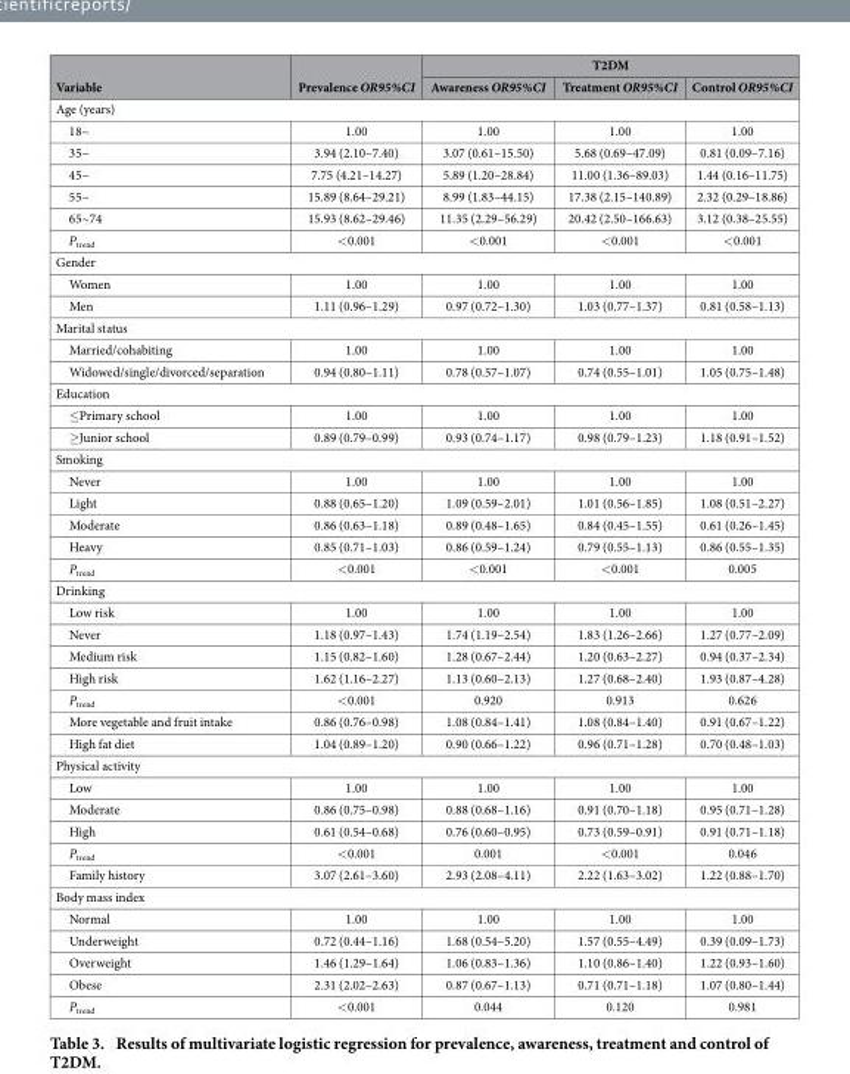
<table><thead><tr><td rowspan="2">Variable</td><td rowspan="2">Prevalence OR95%CI</td><td colspan="3">T2DM</td></tr><tr><td>Awareness OR95%CI</td><td>Treatment OR95%CI</td><td>Control OR95%CI</td></tr></thead><tbody><tr><td colspan="5">Age (years)</td></tr><tr><td>18~</td><td>1.00</td><td>1.00</td><td>1.00</td><td>1.00</td></tr><tr><td>35~</td><td>3.94 (2.10–7.40)</td><td>3.07 (0.61–15.50)</td><td>5.68 (0.69–47.09)</td><td>0.81 (0.09–7.16)</td></tr><tr><td>45~</td><td>7.75 (4.21–14.27)</td><td>5.89 (1.20–28.84)</td><td>11.00 (1.36–89.03)</td><td>1.44 (0.16–11.75)</td></tr><tr><td>55~</td><td>15.89 (8.64–29.21)</td><td>8.99 (1.83–44.15)</td><td>17.38 (2.15–140.89)</td><td>2.32 (0.29–18.86)</td></tr><tr><td>65~74</td><td>15.93 (8.62–29.46)</td><td>11.35 (2.29–56.29)</td><td>20.42 (2.50–166.63)</td><td>3.12 (0.38–25.55)</td></tr><tr><td>P<sub>trend</sub></td><td>&lt; 0.001</td><td>&lt; 0.001</td><td>&lt; 0.001</td><td>&lt; 0.001</td></tr><tr><td colspan="5">Gender</td></tr><tr><td>Women</td><td>1.00</td><td>1.00</td><td>1.00</td><td>1.00</td></tr><tr><td>Men</td><td>1.11 (0.96–1.29)</td><td>0.97 (0.72–1.30)</td><td>1.03 (0.77–1.37)</td><td>0.81 (0.58–1.13)</td></tr><tr><td colspan="5">Marital status</td></tr><tr><td>Married/cohabiting</td><td>1.00</td><td>1.00</td><td>1.00</td><td>1.00</td></tr><tr><td>Widowed/single/divorced/separation</td><td>0.94 (0.80–1.11)</td><td>0.78 (0.57–1.07)</td><td>0.74 (0.55–1.01)</td><td>1.05 (0.75–1.48)</td></tr><tr><td colspan="5">Education</td></tr><tr><td>≤ Primary school</td><td>1.00</td><td>1.00</td><td>1.00</td><td>1.00</td></tr><tr><td>≥ Junior school</td><td>0.89 (0.79–0.99)</td><td>0.93 (0.74–1.17)</td><td>0.98 (0.79–1.23)</td><td>1.18 (0.91–1.52)</td></tr><tr><td colspan="5">Smoking</td></tr><tr><td>Never</td><td>1.00</td><td>1.00</td><td>1.00</td><td>1.00</td></tr><tr><td>Light</td><td>0.88 (0.65–1.20)</td><td>1.09 (0.59–2.01)</td><td>1.01 (0.56–1.85)</td><td>1.08 (0.51–2.27)</td></tr><tr><td>Moderate</td><td>0.86 (0.63–1.18)</td><td>0.89 (0.48–1.65)</td><td>0.84 (0.45–1.55)</td><td>0.61 (0.26–1.45)</td></tr><tr><td>Heavy</td><td>0.85 (0.71–1.03)</td><td>0.86 (0.59–1.24)</td><td>0.79 (0.55–1.13)</td><td>0.86 (0.55–1.35)</td></tr><tr><td>P<sub>trend</sub></td><td>&lt; 0.001</td><td>&lt; 0.001</td><td>&lt; 0.001</td><td>0.005</td></tr><tr><td colspan="5">Drinking</td></tr><tr><td>Low risk</td><td>1.00</td><td>1.00</td><td>1.00</td><td>1.00</td></tr><tr><td>Never</td><td>1.18 (0.97–1.43)</td><td>1.74 (1.19–2.54)</td><td>1.83 (1.26–2.66)</td><td>1.27 (0.77–2.09)</td></tr><tr><td>Medium risk</td><td>1.15 (0.82–1.60)</td><td>1.28 (0.67–2.44)</td><td>1.20 (0.63–2.27)</td><td>0.94 (0.37–2.34)</td></tr><tr><td>High risk</td><td>1.62 (1.16–2.27)</td><td>1.13 (0.60–2.13)</td><td>1.27 (0.68–2.40)</td><td>1.93 (0.87–4.28)</td></tr><tr><td>P<sub>trend</sub></td><td>&lt; 0.001</td><td>0.920</td><td>0.913</td><td>0.626</td></tr><tr><td>More vegetable and fruit intake</td><td>0.86 (0.76–0.98)</td><td>1.08 (0.84–1.41)</td><td>1.08 (0.84–1.40)</td><td>0.91 (0.67–1.22)</td></tr><tr><td>High fat diet</td><td>1.04 (0.89–1.20)</td><td>0.90 (0.66–1.22)</td><td>0.96 (0.71–1.28)</td><td>0.70 (0.48–1.03)</td></tr><tr><td colspan="5">Physical activity</td></tr><tr><td>Low</td><td>1.00</td><td>1.00</td><td>1.00</td><td>1.00</td></tr><tr><td>Moderate</td><td>0.86 (0.75–0.98)</td><td>0.88 (0.68–1.16)</td><td>0.91 (0.70–1.18)</td><td>0.95 (0.71–1.28)</td></tr><tr><td>High</td><td>0.61 (0.54–0.68)</td><td>0.76 (0.60–0.95)</td><td>0.73 (0.59–0.91)</td><td>0.91 (0.71–1.18)</td></tr><tr><td>P<sub>trend</sub></td><td>&lt; 0.001</td><td>0.001</td><td>&lt; 0.001</td><td>0.046</td></tr><tr><td>Family history</td><td>3.07 (2.61–3.60)</td><td>2.93 (2.08–4.11)</td><td>2.22 (1.63–3.02)</td><td>1.22 (0.88–1.70)</td></tr><tr><td colspan="5">Body mass index</td></tr><tr><td>Normal</td><td>1.00</td><td>1.00</td><td>1.00</td><td>1.00</td></tr><tr><td>Underweight</td><td>0.72 (0.44–1.16)</td><td>1.68 (0.54–5.20)</td><td>1.57 (0.55–4.49)</td><td>0.39 (0.09–1.73)</td></tr><tr><td>Overweight</td><td>1.46 (1.29–1.64)</td><td>1.06 (0.83–1.36)</td><td>1.10 (0.86–1.40)</td><td>1.22 (0.93–1.60)</td></tr><tr><td>Obese</td><td>2.31 (2.02–2.63)</td><td>0.87 (0.67–1.13)</td><td>0.71 (0.71–1.18)</td><td>1.07 (0.80–1.44)</td></tr><tr><td>P<sub>trend</sub></td><td>&lt; 0.001</td><td>0.044</td><td>0.120</td><td>0.981</td></tr></tbody></table>